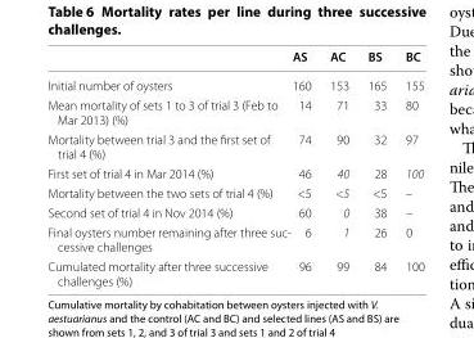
<table><thead><tr><td></td><td>AS</td><td>AC</td><td>BS</td><td>BC</td></tr></thead><tbody><tr><td>Initial number of oysters</td><td>160</td><td>153</td><td>165</td><td>155</td></tr><tr><td>Mean mortality of sets 1 to 3 of trial 3 (Feb to Mar 2013) (%)</td><td>14</td><td>71</td><td>33</td><td>80</td></tr><tr><td>Mortality between trial 3 and the first set of trial 4 (%)</td><td>74</td><td>90</td><td>32</td><td>97</td></tr><tr><td>First set of trial 4 in Mar 2014 (%)</td><td>46</td><td>40</td><td>28</td><td>100</td></tr><tr><td>Mortality between the two sets of trial 4 (%)</td><td>&lt;5</td><td>&lt;5</td><td>&lt;5</td><td>–</td></tr><tr><td>Second set of trial 4 in Nov 2014 (%)</td><td>60</td><td>0</td><td>38</td><td>–</td></tr><tr><td>Final oysters number remaining after three suc‑ cessive challenges</td><td>6</td><td>1</td><td>26</td><td>0</td></tr><tr><td>Cumulated mortality after three successive challenges (%)</td><td>96</td><td>99</td><td>84</td><td>100</td></tr></tbody></table>